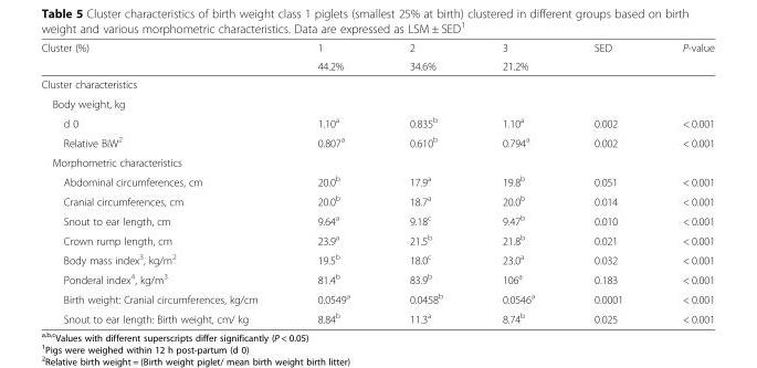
<table><thead><tr><td rowspan="2">Cluster (%)</td><td rowspan="2">1 44.2%</td><td rowspan="2">2 34.6%</td><td rowspan="2">3 21.2%</td><td rowspan="2">SED</td><td rowspan="2">P-value</td></tr><tr></tr></thead><tbody><tr><td colspan="6">Cluster characteristics</td></tr><tr><td colspan="6">Body weight, kg</td></tr><tr><td>d 0</td><td>1.10<sup>a</sup></td><td>0.835<sup>b</sup></td><td>1.10<sup>a</sup></td><td>0.002</td><td>&lt; 0.001</td></tr><tr><td>Relative BiW<sup>2</sup></td><td>0.807<sup>a</sup></td><td>0.610<sup>b</sup></td><td>0.794<sup>a</sup></td><td>0.002</td><td>&lt; 0.001</td></tr><tr><td colspan="6">Morphometric characteristics</td></tr><tr><td>Abdominal circumferences, cm</td><td>20.0<sup>b</sup></td><td>17.9<sup>a</sup></td><td>19.8<sup>b</sup></td><td>0.051</td><td>&lt; 0.001</td></tr><tr><td>Cranial circumferences, cm</td><td>20.0<sup>b</sup></td><td>18.7<sup>a</sup></td><td>20.0<sup>b</sup></td><td>0.014</td><td>&lt; 0.001</td></tr><tr><td>Snout to ear length, cm</td><td>9.64<sup>a</sup></td><td>9.18<sup>c</sup></td><td>9.47<sup>b</sup></td><td>0.010</td><td>&lt; 0.001</td></tr><tr><td>Crown rump length, cm</td><td>23.9<sup>a</sup></td><td>21.5<sup>b</sup></td><td>21.8<sup>b</sup></td><td>0.021</td><td>&lt; 0.001</td></tr><tr><td>Body mass index<sup>3</sup>, kg/m<sup>2</sup></td><td>19.5<sup>b</sup></td><td>18.0<sup>c</sup></td><td>23.0<sup>a</sup></td><td>0.032</td><td>&lt; 0.001</td></tr><tr><td>Ponderal index<sup>4</sup>, kg/m<sup>3</sup></td><td>81.4<sup>b</sup></td><td>83.9<sup>b</sup></td><td>106<sup>a</sup></td><td>0.183</td><td>&lt; 0.001</td></tr><tr><td>Birth weight: Cranial circumferences, kg/cm</td><td>0.0549<sup>a</sup></td><td>0.0458<sup>b</sup></td><td>0.0546<sup>a</sup></td><td>0.0001</td><td>&lt; 0.001</td></tr><tr><td>Snout to ear length: Birth weight, cm/ kg</td><td>8.84<sup>b</sup></td><td>11.3<sup>a</sup></td><td>8.74<sup>b</sup></td><td>0.025</td><td>&lt; 0.001</td></tr></tbody></table>